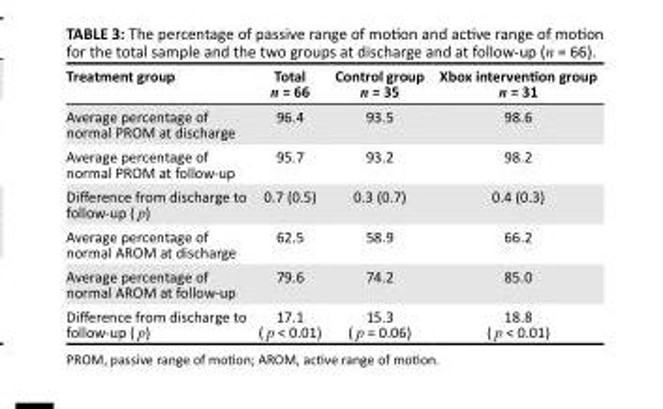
<table><thead><tr><td>Treatment group</td><td>Total n = 66</td><td>Control group n = 35</td><td>Xbox intervention group n = 31</td></tr></thead><tbody><tr><td>Average percentage of normal PROM at discharge</td><td>96.4</td><td>93.5</td><td>98.6</td></tr><tr><td>Average percentage of normal PROM at follow-up</td><td>95.7</td><td>93.2</td><td>98.2</td></tr><tr><td>Difference from discharge to follow-up ( p)</td><td>0.7 (0.5)</td><td>0.3 (0.7)</td><td>0.4 (0.3)</td></tr><tr><td>Average percentage of normal AROM at discharge</td><td>62.5</td><td>58.9</td><td>66.2</td></tr><tr><td>Average percentage of normal AROM at follow-up</td><td>79.6</td><td>74.2</td><td>85.0</td></tr><tr><td>Difference from discharge to follow-up ( p)</td><td>17.1 ( p &lt; 0.01)</td><td>15.3 ( p = 0.06)</td><td>18.8 ( p &lt; 0.01)</td></tr></tbody></table>